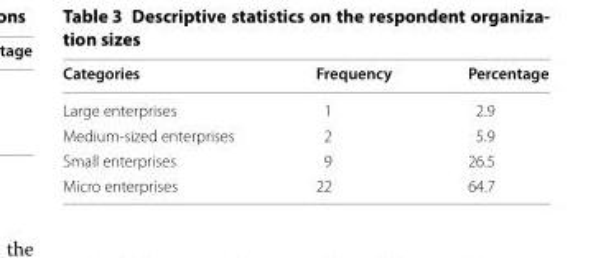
<table><thead><tr><td>Categories</td><td>Frequency</td><td>Percentage</td></tr></thead><tbody><tr><td>Large enterprises</td><td>1</td><td>2.9</td></tr><tr><td>Medium-sized enterprises</td><td>2</td><td>5.9</td></tr><tr><td>Small enterprises</td><td>9</td><td>26.5</td></tr><tr><td>Micro enterprises</td><td>22</td><td>64.7</td></tr></tbody></table>